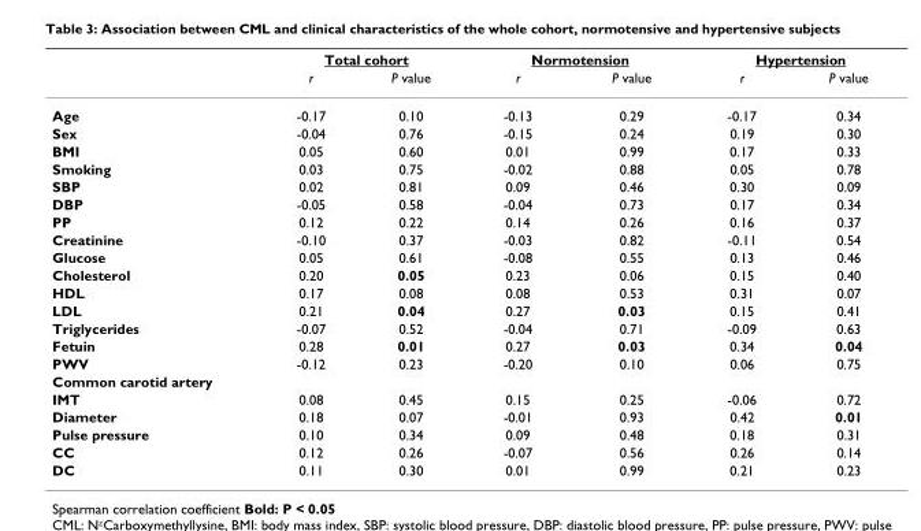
<table><thead><tr><td rowspan="2"></td><td colspan="2">Total cohort</td><td colspan="2">Normotension</td><td colspan="2">Hypertension</td></tr><tr><td>r</td><td>P value</td><td>r</td><td>P value</td><td>r</td><td>P value</td></tr></thead><tbody><tr><td>Age</td><td>-0.17</td><td>0.10</td><td>-0.13</td><td>0.29</td><td>-0.17</td><td>0.34</td></tr><tr><td>Sex</td><td>-0.04</td><td>0.76</td><td>-0.15</td><td>0.24</td><td>0.19</td><td>0.30</td></tr><tr><td>BMI</td><td>0.05</td><td>0.60</td><td>0.01</td><td>0.99</td><td>0.17</td><td>0.33</td></tr><tr><td>Smoking</td><td>0.03</td><td>0.75</td><td>-0.02</td><td>0.88</td><td>0.05</td><td>0.78</td></tr><tr><td>SBP</td><td>0.02</td><td>0.81</td><td>0.09</td><td>0.46</td><td>0.30</td><td>0.09</td></tr><tr><td>DBP</td><td>-0.05</td><td>0.58</td><td>-0.04</td><td>0.73</td><td>0.17</td><td>0.34</td></tr><tr><td>PP</td><td>0.12</td><td>0.22</td><td>0.14</td><td>0.26</td><td>0.16</td><td>0.37</td></tr><tr><td>Creatinine</td><td>-0.10</td><td>0.37</td><td>-0.03</td><td>0.82</td><td>-0.11</td><td>0.54</td></tr><tr><td>Glucose</td><td>0.05</td><td>0.61</td><td>-0.08</td><td>0.55</td><td>0.13</td><td>0.46</td></tr><tr><td>Cholesterol</td><td>0.20</td><td>0.05</td><td>0.23</td><td>0.06</td><td>0.15</td><td>0.40</td></tr><tr><td>HDL</td><td>0.17</td><td>0.08</td><td>0.08</td><td>0.53</td><td>0.31</td><td>0.07</td></tr><tr><td>LDL</td><td>0.21</td><td>0.04</td><td>0.27</td><td>0.03</td><td>0.15</td><td>0.41</td></tr><tr><td>Triglycerides</td><td>-0.07</td><td>0.52</td><td>-0.04</td><td>0.71</td><td>-0.09</td><td>0.63</td></tr><tr><td>Fetuin</td><td>0.28</td><td>0.01</td><td>0.27</td><td>0.03</td><td>0.34</td><td>0.04</td></tr><tr><td>PWV</td><td>-0.12</td><td>0.23</td><td>-0.20</td><td>0.10</td><td>0.06</td><td>0.75</td></tr><tr><td colspan="7">Common carotid artery</td></tr><tr><td>IMT</td><td>0.08</td><td>0.45</td><td>0.15</td><td>0.25</td><td>-0.06</td><td>0.72</td></tr><tr><td>Diameter</td><td>0.18</td><td>0.07</td><td>-0.01</td><td>0.93</td><td>0.42</td><td>0.01</td></tr><tr><td>Pulse pressure</td><td>0.10</td><td>0.34</td><td>0.09</td><td>0.48</td><td>0.18</td><td>0.31</td></tr><tr><td>CC</td><td>0.12</td><td>0.26</td><td>-0.07</td><td>0.56</td><td>0.26</td><td>0.14</td></tr><tr><td>DC</td><td>0.11</td><td>0.30</td><td>0.01</td><td>0.99</td><td>0.21</td><td>0.23</td></tr></tbody></table>